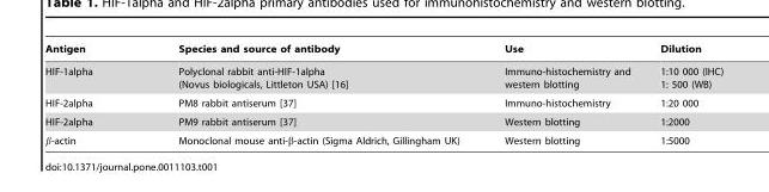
<table><thead><tr><td>Antigen</td><td>Species and source of antibody</td><td>Use</td><td>Dilution</td></tr></thead><tbody><tr><td>HIF-1alpha</td><td>Polyclonal rabbit anti-HIF-1alpha (Novus biologicals, Littleton USA) [16]</td><td>Immuno-histochemistry and western blotting</td><td>1:10 000 (IHC) 1: 500 (WB)</td></tr><tr><td>HIF-2alpha</td><td>PM8 rabbit antiserum [37]</td><td>Immuno-histochemistry</td><td>1:20 000</td></tr><tr><td>HIF-2alpha</td><td>PM9 rabbit antiserum [37]</td><td>Western blotting</td><td>1:2000</td></tr><tr><td>β-actin</td><td>Monoclonal mouse anti-β-actin (Sigma Aldrich, Gillingham UK)</td><td>Western blotting</td><td>1:5000</td></tr></tbody></table>